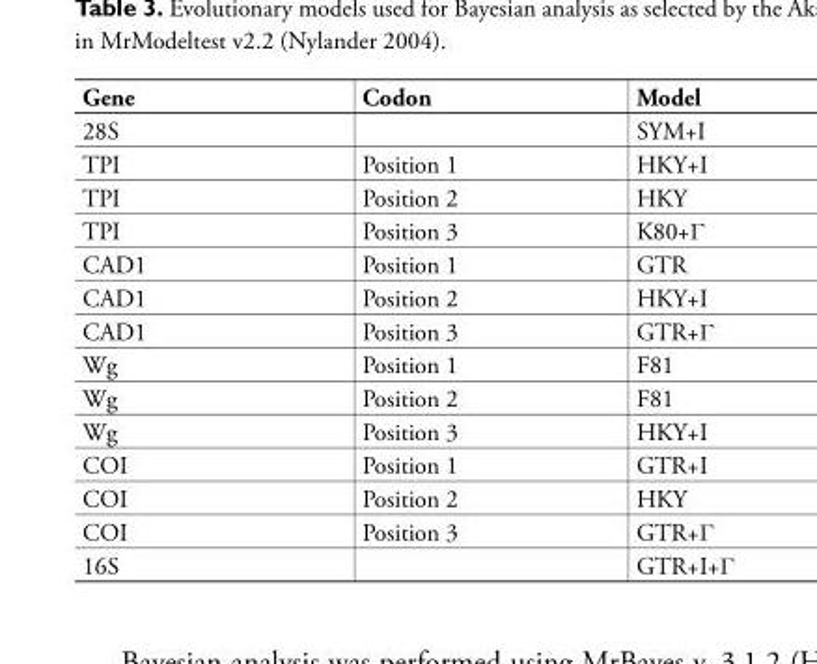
<table><thead><tr><td>Gene</td><td>Codon</td><td>Model</td></tr></thead><tbody><tr><td>28S</td><td></td><td>SYM+I</td></tr><tr><td>TPI</td><td>Position 1</td><td>HKY+I</td></tr><tr><td>TPI</td><td>Position 2</td><td>HKY</td></tr><tr><td>TPI</td><td>Position 3</td><td>K80+Γ</td></tr><tr><td>CAD1</td><td>Position 1</td><td>GTR</td></tr><tr><td>CAD1</td><td>Position 2</td><td>HKY+I</td></tr><tr><td>CAD1</td><td>Position 3</td><td>GTR+Γ</td></tr><tr><td>Wg</td><td>Position 1</td><td>F81</td></tr><tr><td>Wg</td><td>Position 2</td><td>F81</td></tr><tr><td>Wg</td><td>Position 3</td><td>HKY+I</td></tr><tr><td>COI</td><td>Position 1</td><td>GTR+I</td></tr><tr><td>COI</td><td>Position 2</td><td>HKY</td></tr><tr><td>COI</td><td>Position 3</td><td>GTR+Γ</td></tr><tr><td>16S</td><td></td><td>GTR+I+Γ</td></tr></tbody></table>